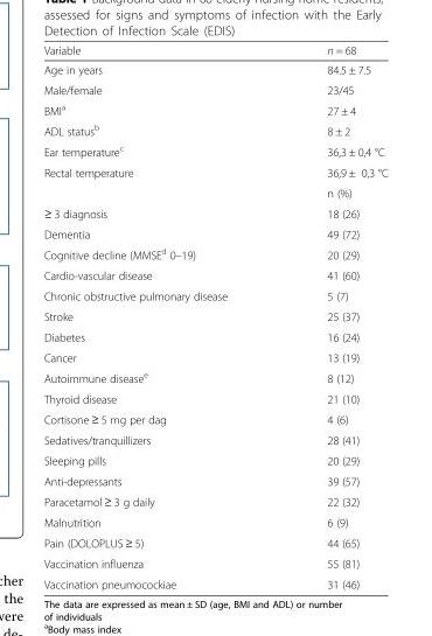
<table><thead><tr><td>Variable</td><td>n = 68</td></tr></thead><tbody><tr><td>Age in years</td><td>84.5 ± 7.5</td></tr><tr><td>Male/female</td><td>23/45</td></tr><tr><td>BMI<sup>a</sup></td><td>27 ± 4</td></tr><tr><td>ADL status<sup>b</sup></td><td>8 ± 2</td></tr><tr><td>Ear temperature<sup>c</sup></td><td>36,3 ± 0,4 °C</td></tr><tr><td rowspan="2">Rectal temperature</td><td>36,9 ± 0,3 °C</td></tr><tr><td>n (%)</td></tr><tr><td>≥ 3 diagnosis</td><td>18 (26)</td></tr><tr><td>Dementia</td><td>49 (72)</td></tr><tr><td>Cognitive decline (MMSE<sup>d</sup> 0–19)</td><td>20 (29)</td></tr><tr><td>Cardio-vascular disease</td><td>41 (60)</td></tr><tr><td>Chronic obstructive pulmonary disease</td><td>5 (7)</td></tr><tr><td>Stroke</td><td>25 (37)</td></tr><tr><td>Diabetes</td><td>16 (24)</td></tr><tr><td>Cancer</td><td>13 (19)</td></tr><tr><td>Autoimmune disease<sup>e</sup></td><td>8 (12)</td></tr><tr><td>Thyroid disease</td><td>21 (10)</td></tr><tr><td>Cortisone ≥ 5 mg per dag</td><td>4 (6)</td></tr><tr><td>Sedatives/tranquillizers</td><td>28 (41)</td></tr><tr><td>Sleeping pills</td><td>20 (29)</td></tr><tr><td>Anti-depressants</td><td>39 (57)</td></tr><tr><td>Paracetamol ≥ 3 g daily</td><td>22 (32)</td></tr><tr><td>Malnutrition</td><td>6 (9)</td></tr><tr><td>Pain (DOLOPLUS ≥ 5)</td><td>44 (65)</td></tr><tr><td>Vaccination influenza</td><td>55 (81)</td></tr><tr><td>Vaccination pneumocockiae</td><td>31 (46)</td></tr></tbody></table>